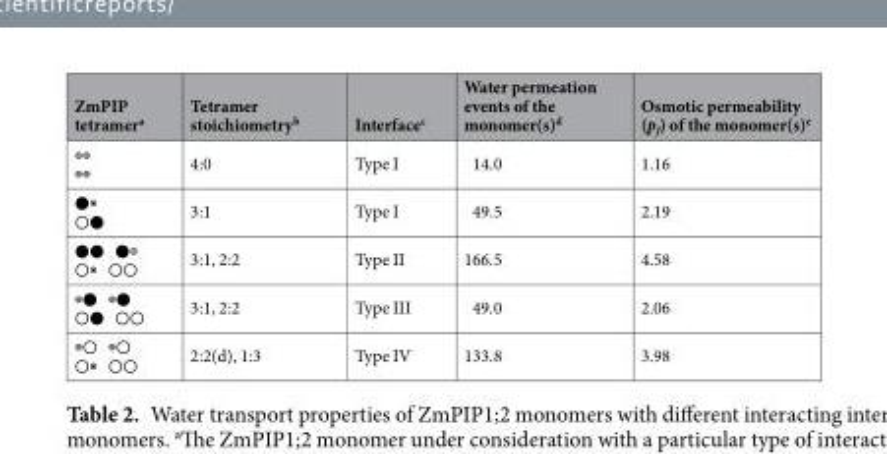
<table><thead><tr><td>ZmPIP tetramer<sup>a</sup></td><td>Tetramer stoichiometry<sup>b</sup></td><td>Interface<sup>c</sup></td><td>Water permeation events of the monomer(s)<sup>d</sup></td><td>Osmotic permeability (p<sub>f</sub>) of the monomer(s)<sup>e</sup></td></tr></thead><tbody><tr><td>◉◉ ◉◉</td><td>4:0</td><td>Type I</td><td>14.0</td><td>1.16</td></tr><tr><td>●◉ ○●</td><td>3:1</td><td>Type I</td><td>49.5</td><td>2.19</td></tr><tr><td>●● ●◉ ○◉ ○○</td><td>3:1, 2:2</td><td>Type II</td><td>166.5</td><td>4.58</td></tr><tr><td>◉● ◉● ○● ○○</td><td>3:1, 2:2</td><td>Type III</td><td>49.0</td><td>2.06</td></tr><tr><td>◉○ ◉○ ○◉ ○○</td><td>2:2(d), 1:3</td><td>Type IV</td><td>133.8</td><td>3.98</td></tr></tbody></table>